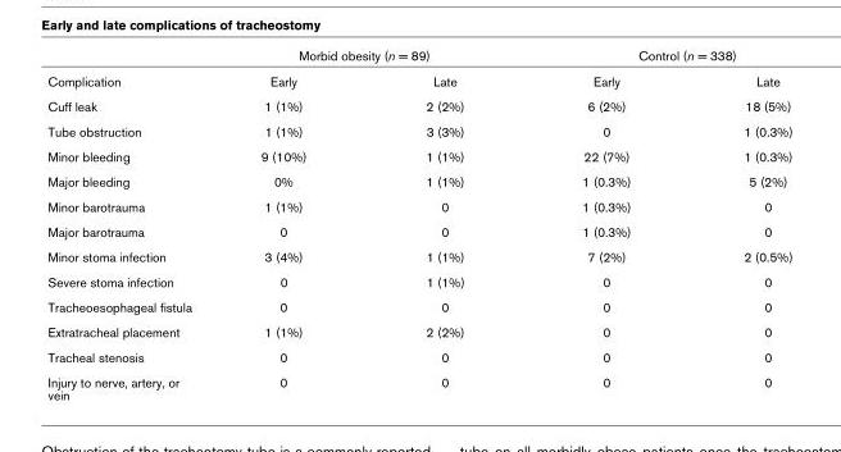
<table><thead><tr><td rowspan="2">Complication</td><td colspan="2">Morbid obesity (n = 89)</td><td colspan="2">Control (n = 338)</td></tr><tr><td>Early</td><td>Late</td><td>Early</td><td>Late</td></tr></thead><tbody><tr><td>Cuff leak</td><td>1 (1%)</td><td>2 (2%)</td><td>6 (2%)</td><td>18 (5%)</td></tr><tr><td>Tube obstruction</td><td>1 (1%)</td><td>3 (3%)</td><td>0</td><td>1 (0.3%)</td></tr><tr><td>Minor bleeding</td><td>9 (10%)</td><td>1 (1%)</td><td>22 (7%)</td><td>1 (0.3%)</td></tr><tr><td>Major bleeding</td><td>0%</td><td>1 (1%)</td><td>1 (0.3%)</td><td>5 (2%)</td></tr><tr><td>Minor barotrauma</td><td>1 (1%)</td><td>0</td><td>1 (0.3%)</td><td>0</td></tr><tr><td>Major barotrauma</td><td>0</td><td>0</td><td>1 (0.3%)</td><td>0</td></tr><tr><td>Minor stoma infection</td><td>3 (4%)</td><td>1 (1%)</td><td>7 (2%)</td><td>2 (0.5%)</td></tr><tr><td>Severe stoma infection</td><td>0</td><td>1 (1%)</td><td>0</td><td>0</td></tr><tr><td>Tracheoesophageal fistula</td><td>0</td><td>0</td><td>0</td><td>0</td></tr><tr><td>Extratracheal placement</td><td>1 (1%)</td><td>2 (2%)</td><td>0</td><td>0</td></tr><tr><td>Tracheal stenosis</td><td>0</td><td>0</td><td>0</td><td>0</td></tr><tr><td>Injury to nerve, artery, or vein</td><td>0</td><td>0</td><td>0</td><td>0</td></tr></tbody></table>